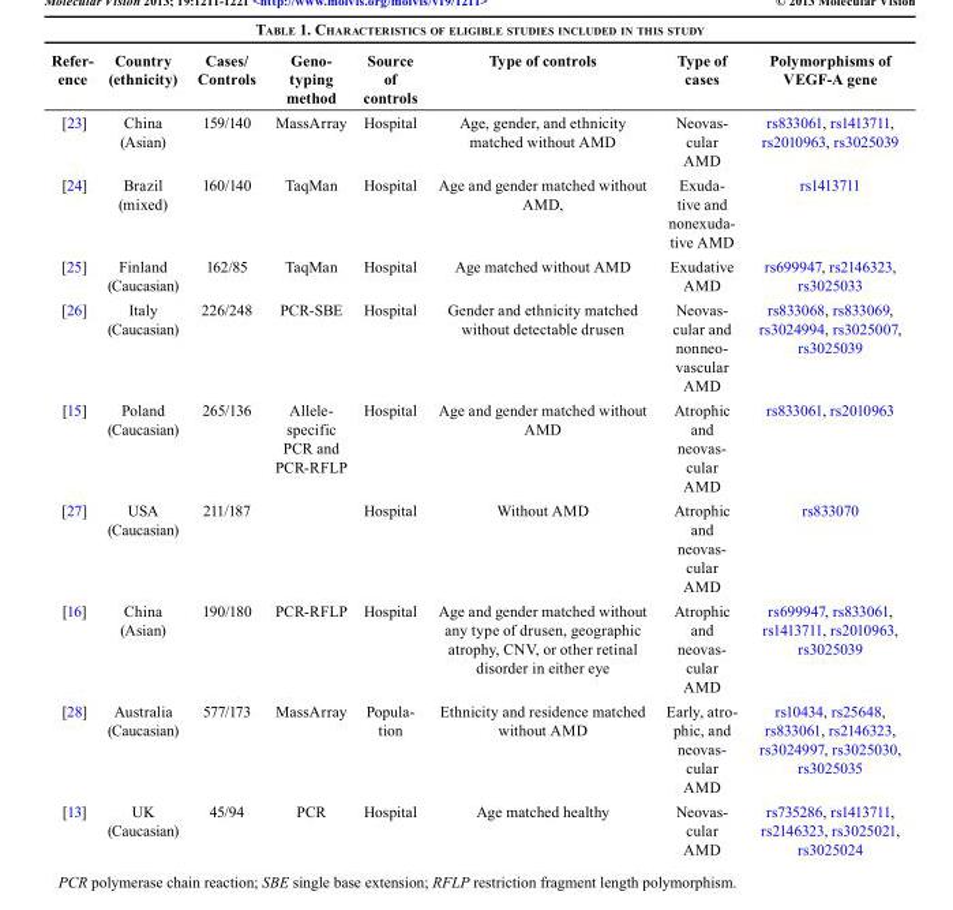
<table><thead><tr><td>Refer- ence</td><td>Country (ethnicity)</td><td>Cases/ Controls</td><td>Geno- typing method</td><td>Source of controls</td><td>Type of controls</td><td>Type of cases</td><td>Polymorphisms of VEGF-A gene</td></tr></thead><tbody><tr><td>[23]</td><td>China (Asian)</td><td>159/140</td><td>MassArray</td><td>Hospital</td><td>Age, gender, and ethnicity matched without AMD</td><td>Neovas- cular AMD</td><td>rs833061, rs1413711, rs2010963, rs3025039</td></tr><tr><td>[24]</td><td>Brazil (mixed)</td><td>160/140</td><td>TaqMan</td><td>Hospital</td><td>Age and gender matched without AMD,</td><td>Exuda- tive and nonexuda- tive AMD</td><td>rs1413711</td></tr><tr><td>[25]</td><td>Finland (Caucasian)</td><td>162/85</td><td>TaqMan</td><td>Hospital</td><td>Age matched without AMD</td><td>Exudative AMD</td><td>rs699947, rs2146323, rs3025033</td></tr><tr><td>[26]</td><td>Italy (Caucasian)</td><td>226/248</td><td>PCR-SBE</td><td>Hospital</td><td>Gender and ethnicity matched without detectable drusen</td><td>Neovas- cular and nonneo- vascular AMD</td><td>rs833068, rs833069, rs3024994, rs3025007, rs3025039</td></tr><tr><td>[15]</td><td>Poland (Caucasian)</td><td>265/136</td><td>Allele- specific PCR and PCR-RFLP</td><td>Hospital</td><td>Age and gender matched without AMD</td><td>Atrophic and neovas- cular AMD</td><td>rs833061, rs2010963</td></tr><tr><td>[27]</td><td>USA (Caucasian)</td><td>211/187</td><td></td><td>Hospital</td><td>Without AMD</td><td>Atrophic and neovas- cular AMD</td><td>rs833070</td></tr><tr><td>[16]</td><td>China (Asian)</td><td>190/180</td><td>PCR-RFLP</td><td>Hospital</td><td>Age and gender matched without any type of drusen, geographic atrophy, CNV, or other retinal disorder in either eye</td><td>Atrophic and neovas- cular AMD</td><td>rs699947, rs833061, rs1413711, rs2010963, rs3025039</td></tr><tr><td>[28]</td><td>Australia (Caucasian)</td><td>577/173</td><td>MassArray</td><td>Popula- tion</td><td>Ethnicity and residence matched without AMD</td><td>Early, atro- phic, and neovas- cular AMD</td><td>rs10434, rs25648, rs833061, rs2146323, rs3024997, rs3025030, rs3025035</td></tr><tr><td>[13]</td><td>UK (Caucasian)</td><td>45/94</td><td>PCR</td><td>Hospital</td><td>Age matched healthy</td><td>Neovas- cular AMD</td><td>rs735286, rs1413711, rs2146323, rs3025021, rs3025024</td></tr></tbody></table>